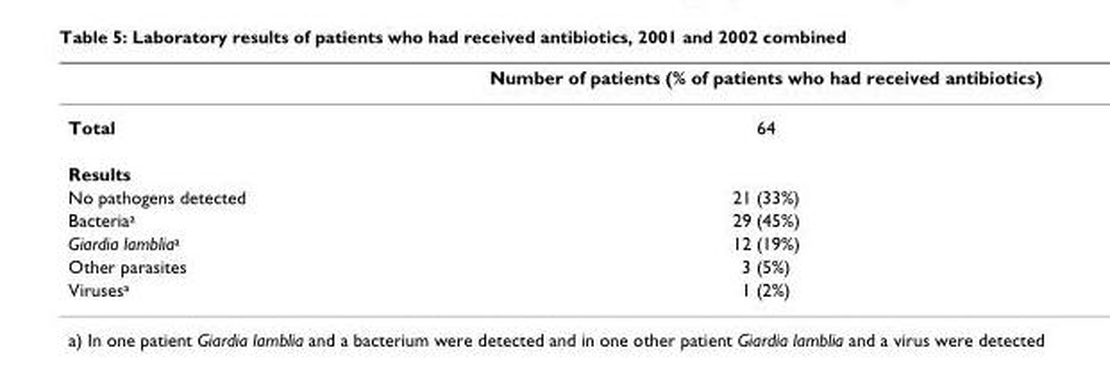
<table><thead><tr><td></td><td>Number of patients (% of patients who had received antibiotics)</td></tr></thead><tbody><tr><td>Total</td><td>64</td></tr><tr><td colspan="2">Results</td></tr><tr><td>No pathogens detected</td><td>21 (33%)</td></tr><tr><td>Bacteria<sup>a</sup></td><td>29 (45%)</td></tr><tr><td>Giardia lamblia<sup>a</sup></td><td>12 (19%)</td></tr><tr><td>Other parasites</td><td>3 (5%)</td></tr><tr><td>Viruses<sup>a</sup></td><td>1 (2%)</td></tr></tbody></table>